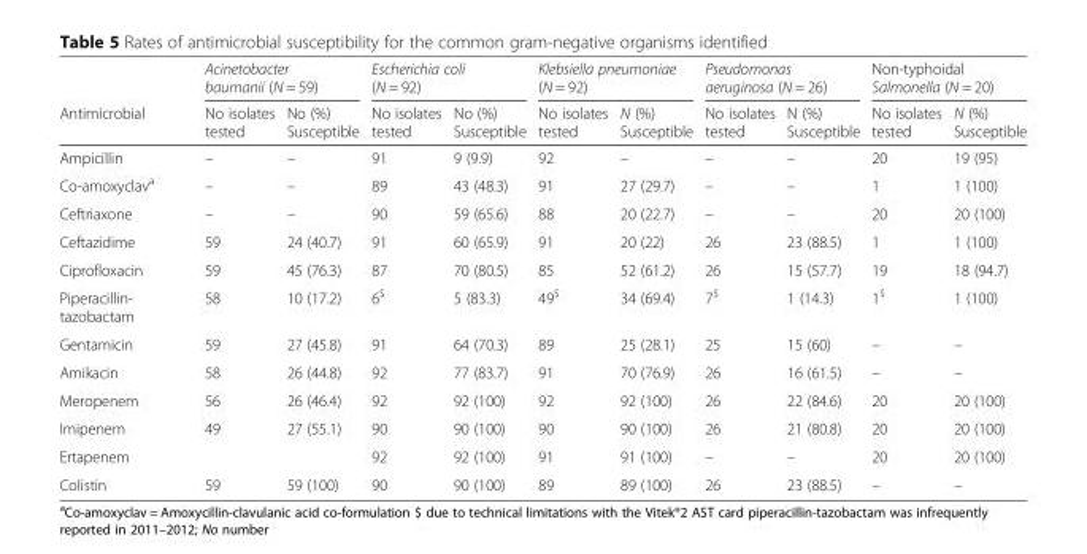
<table><thead><tr><td rowspan="2">Antimicrobial</td><td colspan="2">Acinetobacter baumanii (N = 59)</td><td colspan="2">Escherichia coli (N = 92)</td><td colspan="2">Klebsiella pneumoniae (N = 92)</td><td colspan="2">Pseudomonas aeruginosa (N = 26)</td><td colspan="2">Non-typhoidal Salmonella (N = 20)</td></tr><tr><td>No isolates tested</td><td>No (%) Susceptible</td><td>No isolates tested</td><td>No (%) Susceptible</td><td>No isolates tested</td><td>N (%) Susceptible</td><td>No isolates tested</td><td>N (%) Susceptible</td><td>No isolates tested</td><td>N (%) Susceptible</td></tr></thead><tbody><tr><td>Ampicillin</td><td>–</td><td>–</td><td>91</td><td>9 (9.9)</td><td>92</td><td>–</td><td>–</td><td>–</td><td>20</td><td>19 (95)</td></tr><tr><td>Co-amoxyclav<sup>a</sup></td><td>–</td><td>–</td><td>89</td><td>43 (48.3)</td><td>91</td><td>27 (29.7)</td><td>–</td><td>–</td><td>1</td><td>1 (100)</td></tr><tr><td>Ceftriaxone</td><td>–</td><td>–</td><td>90</td><td>59 (65.6)</td><td>88</td><td>20 (22.7)</td><td>–</td><td>–</td><td>20</td><td>20 (100)</td></tr><tr><td>Ceftazidime</td><td>59</td><td>24 (40.7)</td><td>91</td><td>60 (65.9)</td><td>91</td><td>20 (22)</td><td>26</td><td>23 (88.5)</td><td>1</td><td>1 (100)</td></tr><tr><td>Ciprofloxacin</td><td>59</td><td>45 (76.3)</td><td>87</td><td>70 (80.5)</td><td>85</td><td>52 (61.2)</td><td>26</td><td>15 (57.7)</td><td>19</td><td>18 (94.7)</td></tr><tr><td>Piperacillin- tazobactam</td><td>58</td><td>10 (17.2)</td><td>6<sup>$</sup></td><td>5 (83.3)</td><td>49<sup>$</sup></td><td>34 (69.4)</td><td>7<sup>$</sup></td><td>1 (14.3)</td><td>1<sup>$</sup></td><td>1 (100)</td></tr><tr><td>Gentamicin</td><td>59</td><td>27 (45.8)</td><td>91</td><td>64 (70.3)</td><td>89</td><td>25 (28.1)</td><td>25</td><td>15 (60)</td><td>–</td><td>–</td></tr><tr><td>Amikacin</td><td>58</td><td>26 (44.8)</td><td>92</td><td>77 (83.7)</td><td>91</td><td>70 (76.9)</td><td>26</td><td>16 (61.5)</td><td>–</td><td>–</td></tr><tr><td>Meropenem</td><td>56</td><td>26 (46.4)</td><td>92</td><td>92 (100)</td><td>92</td><td>92 (100)</td><td>26</td><td>22 (84.6)</td><td>20</td><td>20 (100)</td></tr><tr><td>Imipenem</td><td>49</td><td>27 (55.1)</td><td>90</td><td>90 (100)</td><td>90</td><td>90 (100)</td><td>26</td><td>21 (80.8)</td><td>20</td><td>20 (100)</td></tr><tr><td>Ertapenem</td><td></td><td></td><td>92</td><td>92 (100)</td><td>91</td><td>91 (100)</td><td>–</td><td>–</td><td>20</td><td>20 (100)</td></tr><tr><td>Colistin</td><td>59</td><td>59 (100)</td><td>90</td><td>90 (100)</td><td>89</td><td>89 (100)</td><td>26</td><td>23 (88.5)</td><td>–</td><td>–</td></tr></tbody></table>